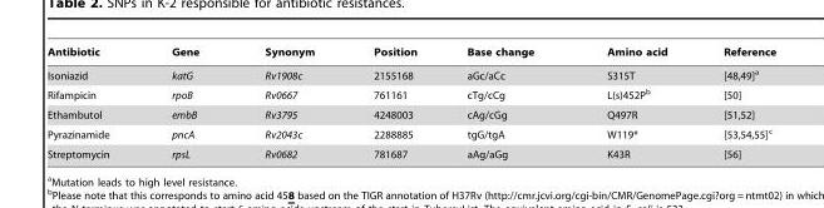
<table><thead><tr><td>Antibiotic</td><td>Gene</td><td>Synonym</td><td>Position</td><td>Base change</td><td>Amino acid</td><td>Reference</td></tr></thead><tbody><tr><td>Isoniazid</td><td>katG</td><td>Rv1908c</td><td>2155168</td><td>aGc/aCc</td><td>S315T</td><td>[48,49]a</td></tr><tr><td>Rifampicin</td><td>rpoB</td><td>Rv0667</td><td>761161</td><td>cTg/cCg</td><td>L(s)452P<sup>b</sup></td><td>[50]</td></tr><tr><td>Ethambutol</td><td>embB</td><td>Rv3795</td><td>4248003</td><td>cAg/cGg</td><td>Q497R</td><td>[51,52]</td></tr><tr><td>Pyrazinamide</td><td>pncA</td><td>Rv2043c</td><td>2288885</td><td>tgG/tgA</td><td>W119*</td><td>[53,54,55]c</td></tr><tr><td>Streptomycin</td><td>rpsL</td><td>Rv0682</td><td>781687</td><td>aAg/aGg</td><td>K43R</td><td>[56]</td></tr></tbody></table>